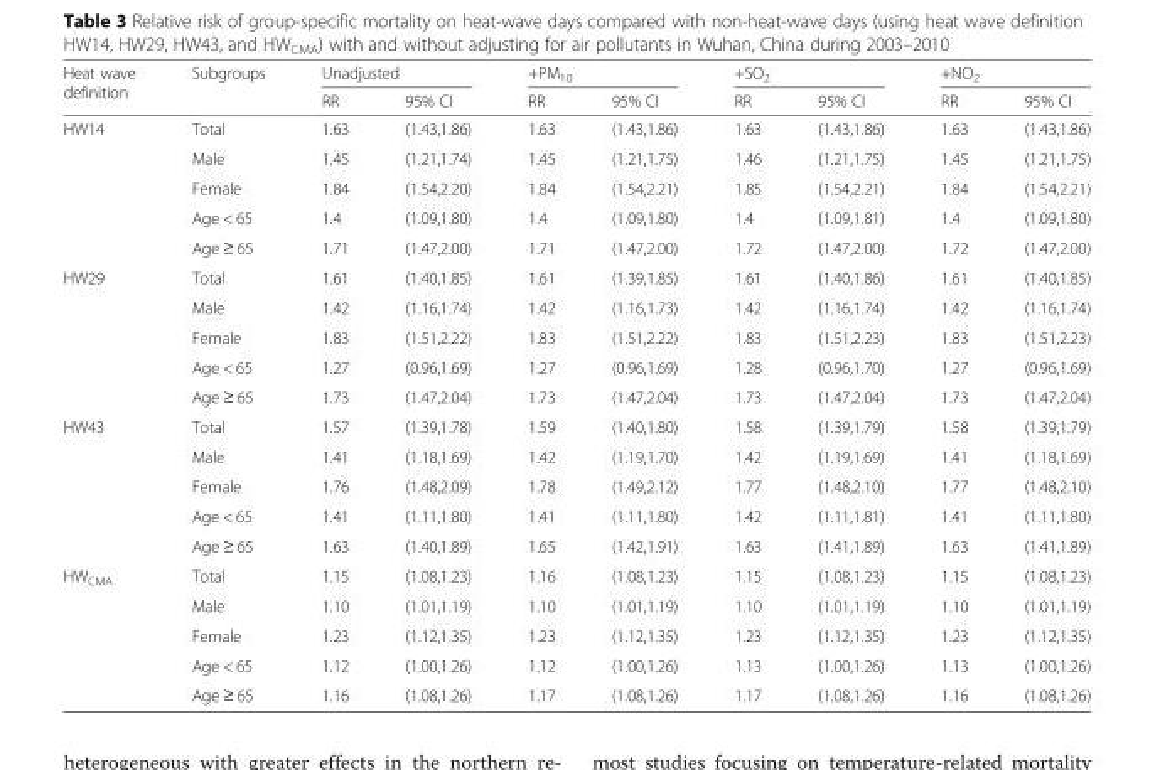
<table><thead><tr><td rowspan="2">Heat wave definition</td><td rowspan="2">Subgroups</td><td colspan="2">Unadjusted</td><td colspan="2">+PM<sub>10</sub></td><td colspan="2">+SO<sub>2</sub></td><td colspan="2">+NO<sub>2</sub></td></tr><tr><td>RR</td><td>95% CI</td><td>RR</td><td>95% CI</td><td>RR</td><td>95% CI</td><td>RR</td><td>95% CI</td></tr></thead><tbody><tr><td rowspan="5">HW14</td><td>Total</td><td>1.63</td><td>(1.43,1.86)</td><td>1.63</td><td>(1.43,1.86)</td><td>1.63</td><td>(1.43,1.86)</td><td>1.63</td><td>(1.43,1.86)</td></tr><tr><td>Male</td><td>1.45</td><td>(1.21,1.74)</td><td>1.45</td><td>(1.21,1.75)</td><td>1.46</td><td>(1.21,1.75)</td><td>1.45</td><td>(1.21,1.75)</td></tr><tr><td>Female</td><td>1.84</td><td>(1.54,2.20)</td><td>1.84</td><td>(1.54,2.21)</td><td>1.85</td><td>(1.54,2.21)</td><td>1.84</td><td>(1.54,2.21)</td></tr><tr><td>Age &lt; 65</td><td>1.4</td><td>(1.09,1.80)</td><td>1.4</td><td>(1.09,1.80)</td><td>1.4</td><td>(1.09,1.81)</td><td>1.4</td><td>(1.09,1.80)</td></tr><tr><td>Age ≥ 65</td><td>1.71</td><td>(1.47,2.00)</td><td>1.71</td><td>(1.47,2.00)</td><td>1.72</td><td>(1.47,2.00)</td><td>1.72</td><td>(1.47,2.00)</td></tr><tr><td rowspan="5">HW29</td><td>Total</td><td>1.61</td><td>(1.40,1.85)</td><td>1.61</td><td>(1.39,1.85)</td><td>1.61</td><td>(1.40,1.86)</td><td>1.61</td><td>(1.40,1.85)</td></tr><tr><td>Male</td><td>1.42</td><td>(1.16,1.74)</td><td>1.42</td><td>(1.16,1.73)</td><td>1.42</td><td>(1.16,1.74)</td><td>1.42</td><td>(1.16,1.74)</td></tr><tr><td>Female</td><td>1.83</td><td>(1.51,2.22)</td><td>1.83</td><td>(1.51,2.22)</td><td>1.83</td><td>(1.51,2.23)</td><td>1.83</td><td>(1.51,2.23)</td></tr><tr><td>Age &lt; 65</td><td>1.27</td><td>(0.96,1.69)</td><td>1.27</td><td>(0.96,1.69)</td><td>1.28</td><td>(0.96,1.70)</td><td>1.27</td><td>(0.96,1.69)</td></tr><tr><td>Age ≥ 65</td><td>1.73</td><td>(1.47,2.04)</td><td>1.73</td><td>(1.47,2.04)</td><td>1.73</td><td>(1.47,2.04)</td><td>1.73</td><td>(1.47,2.04)</td></tr><tr><td rowspan="5">HW43</td><td>Total</td><td>1.57</td><td>(1.39,1.78)</td><td>1.59</td><td>(1.40,1.80)</td><td>1.58</td><td>(1.39,1.79)</td><td>1.58</td><td>(1.39,1.79)</td></tr><tr><td>Male</td><td>1.41</td><td>(1.18,1.69)</td><td>1.42</td><td>(1.19,1.70)</td><td>1.42</td><td>(1.19,1.69)</td><td>1.41</td><td>(1.18,1.69)</td></tr><tr><td>Female</td><td>1.76</td><td>(1.48,2.09)</td><td>1.78</td><td>(1.49,2.12)</td><td>1.77</td><td>(1.48,2.10)</td><td>1.77</td><td>(1.48,2.10)</td></tr><tr><td>Age &lt; 65</td><td>1.41</td><td>(1.11,1.80)</td><td>1.41</td><td>(1.11,1.80)</td><td>1.42</td><td>(1.11,1.81)</td><td>1.41</td><td>(1.11,1.80)</td></tr><tr><td>Age ≥ 65</td><td>1.63</td><td>(1.40,1.89)</td><td>1.65</td><td>(1.42,1.91)</td><td>1.63</td><td>(1.41,1.89)</td><td>1.63</td><td>(1.41,1.89)</td></tr><tr><td rowspan="5">HW<sub>CMA</sub></td><td>Total</td><td>1.15</td><td>(1.08,1.23)</td><td>1.16</td><td>(1.08,1.23)</td><td>1.15</td><td>(1.08,1.23)</td><td>1.15</td><td>(1.08,1.23)</td></tr><tr><td>Male</td><td>1.10</td><td>(1.01,1.19)</td><td>1.10</td><td>(1.01,1.19)</td><td>1.10</td><td>(1.01,1.19)</td><td>1.10</td><td>(1.01,1.19)</td></tr><tr><td>Female</td><td>1.23</td><td>(1.12,1.35)</td><td>1.23</td><td>(1.12,1.35)</td><td>1.23</td><td>(1.12,1.35)</td><td>1.23</td><td>(1.12,1.35)</td></tr><tr><td>Age &lt; 65</td><td>1.12</td><td>(1.00,1.26)</td><td>1.12</td><td>(1.00,1.26)</td><td>1.13</td><td>(1.00,1.26)</td><td>1.13</td><td>(1.00,1.26)</td></tr><tr><td>Age ≥ 65</td><td>1.16</td><td>(1.08,1.26)</td><td>1.17</td><td>(1.08,1.26)</td><td>1.17</td><td>(1.08,1.26)</td><td>1.16</td><td>(1.08,1.26)</td></tr></tbody></table>